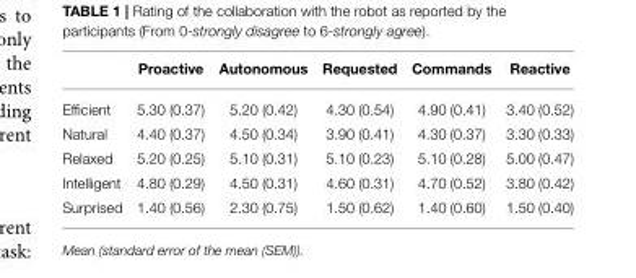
<table><thead><tr><td></td><td>Proactive</td><td>Autonomous</td><td>Requested</td><td>Commands</td><td>Reactive</td></tr></thead><tbody><tr><td>Efficient</td><td>5.30 (0.37)</td><td>5.20 (0.42)</td><td>4.30 (0.54)</td><td>4.90 (0.41)</td><td>3.40 (0.52)</td></tr><tr><td>Natural</td><td>4.40 (0.37)</td><td>4.50 (0.34)</td><td>3.90 (0.41)</td><td>4.30 (0.37)</td><td>3.30 (0.33)</td></tr><tr><td>Relaxed</td><td>5.20 (0.25)</td><td>5.10 (0.31)</td><td>5.10 (0.23)</td><td>5.10 (0.28)</td><td>5.00 (0.47)</td></tr><tr><td>Intelligent</td><td>4.80 (0.29)</td><td>4.50 (0.31)</td><td>4.60 (0.31)</td><td>4.70 (0.52)</td><td>3.80 (0.42)</td></tr><tr><td>Surprised</td><td>1.40 (0.56)</td><td>2.30 (0.75)</td><td>1.50 (0.62)</td><td>1.40 (0.60)</td><td>1.50 (0.40)</td></tr></tbody></table>